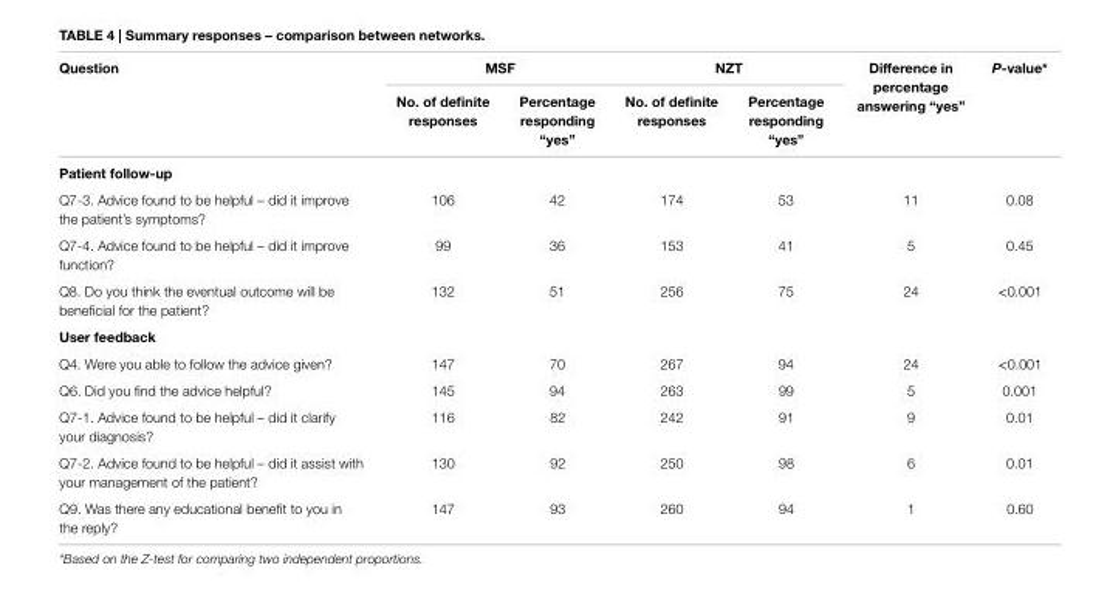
<table><thead><tr><td rowspan="2">Question</td><td colspan="2">MsF</td><td colspan="2">nZT</td><td rowspan="2">Difference in percentage answering “yes”</td><td rowspan="2">P-value*</td></tr><tr><td>no. of definite responses</td><td>Percentage responding “yes”</td><td>no. of definite responses</td><td>Percentage responding “yes”</td></tr></thead><tbody><tr><td colspan="7">Patient follow-up</td></tr><tr><td>Q7-3. Advice found to be helpful – did it improve the patient’s symptoms?</td><td>106</td><td>42</td><td>174</td><td>53</td><td>11</td><td>0.08</td></tr><tr><td>Q7-4. Advice found to be helpful – did it improve function?</td><td>99</td><td>36</td><td>153</td><td>41</td><td>5</td><td>0.45</td></tr><tr><td>Q8. Do you think the eventual outcome will be beneficial for the patient?</td><td>132</td><td>51</td><td>256</td><td>75</td><td>24</td><td>&lt;0.001</td></tr><tr><td colspan="7">User feedback</td></tr><tr><td>Q4. Were you able to follow the advice given?</td><td>147</td><td>70</td><td>267</td><td>94</td><td>24</td><td>&lt;0.001</td></tr><tr><td>Q6. Did you find the advice helpful?</td><td>145</td><td>94</td><td>263</td><td>99</td><td>5</td><td>0.001</td></tr><tr><td>Q7-1. Advice found to be helpful – did it clarify your diagnosis?</td><td>116</td><td>82</td><td>242</td><td>91</td><td>9</td><td>0.01</td></tr><tr><td>Q7-2. Advice found to be helpful – did it assist with your management of the patient?</td><td>130</td><td>92</td><td>250</td><td>98</td><td>6</td><td>0.01</td></tr><tr><td>Q9. Was there any educational benefit to you in the reply?</td><td>147</td><td>93</td><td>260</td><td>94</td><td>1</td><td>0.60</td></tr></tbody></table>